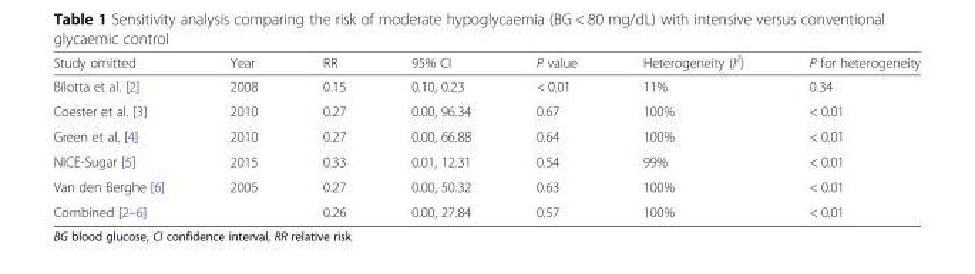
<table><thead><tr><td>Study omitted</td><td>Year</td><td>RR</td><td>95% CI</td><td>P value</td><td>Heterogeneity (I<sup>2</sup>)</td><td>P for heterogeneity</td></tr></thead><tbody><tr><td>Bilotta et al. [2]</td><td>2008</td><td>0.15</td><td>0.10, 0.23</td><td>&lt; 0.01</td><td>11%</td><td>0.34</td></tr><tr><td>Coester et al. [3]</td><td>2010</td><td>0.27</td><td>0.00, 96.34</td><td>0.67</td><td>100%</td><td>&lt; 0.01</td></tr><tr><td>Green et al. [4]</td><td>2010</td><td>0.27</td><td>0.00, 66.88</td><td>0.64</td><td>100%</td><td>&lt; 0.01</td></tr><tr><td>NICE-Sugar [5]</td><td>2015</td><td>0.33</td><td>0.01, 12.31</td><td>0.54</td><td>99%</td><td>&lt; 0.01</td></tr><tr><td>Van den Berghe [6]</td><td>2005</td><td>0.27</td><td>0.00, 50.32</td><td>0.63</td><td>100%</td><td>&lt; 0.01</td></tr><tr><td>Combined [2–6]</td><td></td><td>0.26</td><td>0.00, 27.84</td><td>0.57</td><td>100%</td><td>&lt; 0.01</td></tr></tbody></table>